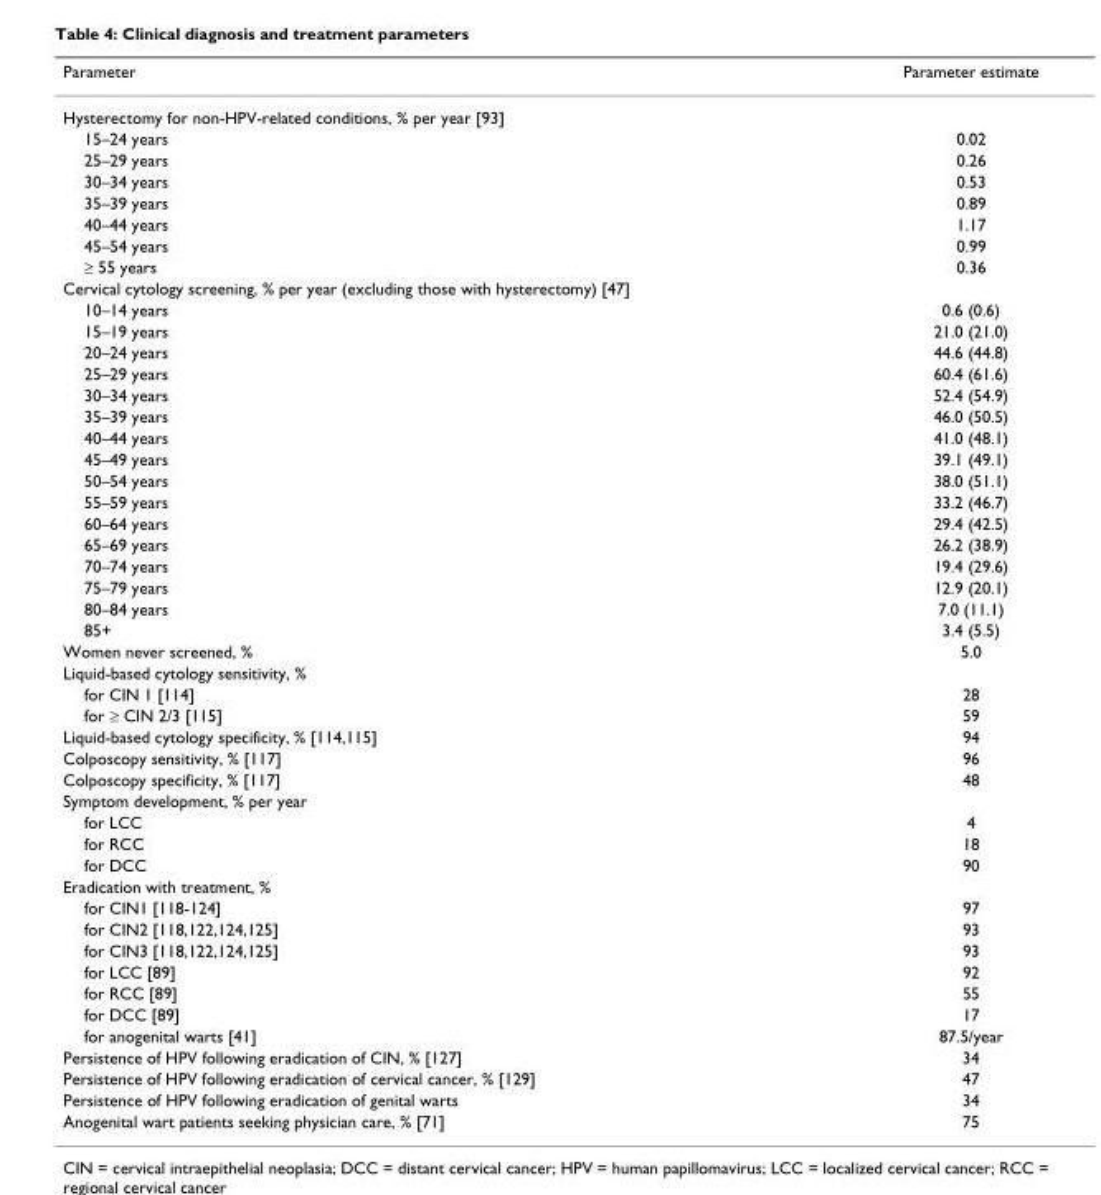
<table><thead><tr><td>Parameter</td><td>Parameter estimate</td></tr></thead><tbody><tr><td colspan="2">Hysterectomy for non-HPV-related conditions, % per year [93]</td></tr><tr><td>15–24 years</td><td>0.02</td></tr><tr><td>25–29 years</td><td>0.26</td></tr><tr><td>30–34 years</td><td>0.53</td></tr><tr><td>35–39 years</td><td>0.89</td></tr><tr><td>40–44 years</td><td>1.17</td></tr><tr><td>45–54 years</td><td>0.99</td></tr><tr><td>≥ 55 years</td><td>0.36</td></tr><tr><td colspan="2">Cervical cytology screening, % per year (excluding those with hysterectomy) [47]</td></tr><tr><td>10–14 years</td><td>0.6 (0.6)</td></tr><tr><td>15–19 years</td><td>21.0 (21.0)</td></tr><tr><td>20–24 years</td><td>44.6 (44.8)</td></tr><tr><td>25–29 years</td><td>60.4 (61.6)</td></tr><tr><td>30–34 years</td><td>52.4 (54.9)</td></tr><tr><td>35–39 years</td><td>46.0 (50.5)</td></tr><tr><td>40–44 years</td><td>41.0 (48.1)</td></tr><tr><td>45–49 years</td><td>39.1 (49.1)</td></tr><tr><td>50–54 years</td><td>38.0 (51.1)</td></tr><tr><td>55–59 years</td><td>33.2 (46.7)</td></tr><tr><td>60–64 years</td><td>29.4 (42.5)</td></tr><tr><td>65–69 years</td><td>26.2 (38.9)</td></tr><tr><td>70–74 years</td><td>19.4 (29.6)</td></tr><tr><td>75–79 years</td><td>12.9 (20.1)</td></tr><tr><td>80–84 years</td><td>7.0 (11.1)</td></tr><tr><td>85+</td><td>3.4 (5.5)</td></tr><tr><td>Women never screened, %</td><td>5.0</td></tr><tr><td colspan="2">Liquid-based cytology sensitivity, %</td></tr><tr><td>for CIN 1 [114]</td><td>28</td></tr><tr><td>for ≥ CIN 2/3 [115]</td><td>59</td></tr><tr><td>Liquid-based cytology specificity, % [114,115]</td><td>94</td></tr><tr><td>Colposcopy sensitivity, % [117]</td><td>96</td></tr><tr><td>Colposcopy specificity, % [117]</td><td>48</td></tr><tr><td colspan="2">Symptom development, % per year</td></tr><tr><td>for LCC</td><td>4</td></tr><tr><td>for RCC</td><td>18</td></tr><tr><td>for DCC</td><td>90</td></tr><tr><td colspan="2">Eradication with treatment, %</td></tr><tr><td>for CIN1 [118-124]</td><td>97</td></tr><tr><td>for CIN2 [118,122,124,125]</td><td>93</td></tr><tr><td>for CIN3 [118,122,124,125]</td><td>93</td></tr><tr><td>for LCC [89]</td><td>92</td></tr><tr><td>for RCC [89]</td><td>55</td></tr><tr><td>for DCC [89]</td><td>17</td></tr><tr><td>for anogenital warts [41]</td><td>87.5/year</td></tr><tr><td>Persistence of HPV following eradication of CIN, % [127]</td><td>34</td></tr><tr><td>Persistence of HPV following eradication of cervical cancer, % [129]</td><td>47</td></tr><tr><td>Persistence of HPV following eradication of genital warts</td><td>34</td></tr><tr><td>Anogenital wart patients seeking physician care, % [71]</td><td>75</td></tr></tbody></table>